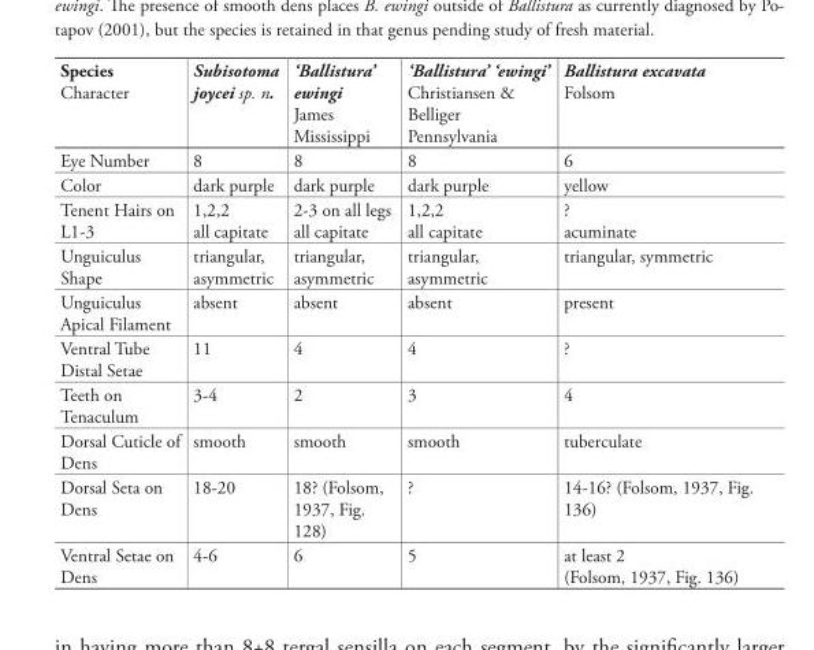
<table><thead><tr><td>Species Character</td><td>Subisotoma joycei sp. n.</td><td>‘Ballistura’ ewingi James Mississippi</td><td>‘Ballistura’ ‘ewingi’ Christiansen &amp; Belliger Pennsylvania</td><td>Ballistura excavata Folsom</td></tr></thead><tbody><tr><td>Eye Number</td><td>8</td><td>8</td><td>8</td><td>6</td></tr><tr><td>Color</td><td>dark purple</td><td>dark purple</td><td>dark purple</td><td>yellow</td></tr><tr><td>Tenent Hairs on L1-3</td><td>1,2,2 all capitate</td><td>2-3 on all legs all capitate</td><td>1,2,2 all capitate</td><td>? acuminate</td></tr><tr><td>Unguiculus Shape</td><td>triangular, asymmetric</td><td>triangular, asymmetric</td><td>triangular, asymmetric</td><td>triangular, symmetric</td></tr><tr><td>Unguiculus Apical Filament</td><td>absent</td><td>absent</td><td>absent</td><td>present</td></tr><tr><td>Ventral Tube Distal Setae</td><td>11</td><td>4</td><td>4</td><td>?</td></tr><tr><td>Teeth on Tenaculum</td><td>3-4</td><td>2</td><td>3</td><td>4</td></tr><tr><td>Dorsal Cuticle of Dens</td><td>smooth</td><td>smooth</td><td>smooth</td><td>tuberculate</td></tr><tr><td>Dorsal Seta on Dens</td><td>18-20</td><td>18? (Folsom, 1937, Fig. 128)</td><td>?</td><td>14-16? (Folsom, 1937, Fig. 136)</td></tr><tr><td>Ventral Setae on Dens</td><td>4-6</td><td>6</td><td>5</td><td>at least 2 (Folsom, 1937, Fig. 136)</td></tr></tbody></table>